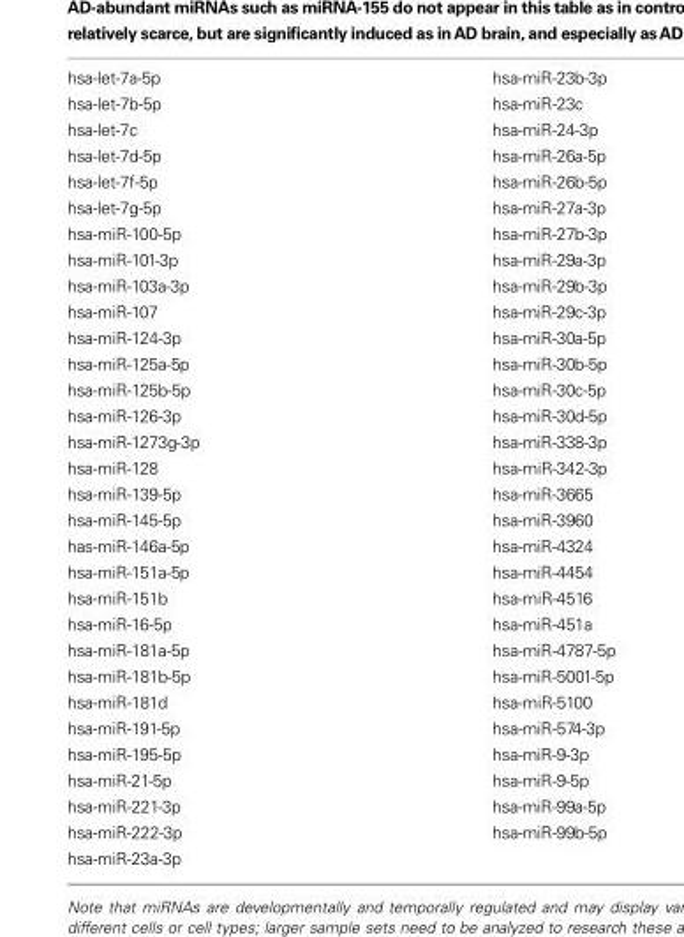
<table><tbody><tr><td>hsa-let-7a-5p</td><td>hsa-miR-23b-3p</td></tr><tr><td>hsa-let-7b-5p</td><td>hsa-miR-23c</td></tr><tr><td>hsa-let-7c</td><td>hsa-miR-24-3p</td></tr><tr><td>hsa-let-7d-5p</td><td>hsa-miR-26a-5p</td></tr><tr><td>hsa-let-7f-5p</td><td>hsa-miR-26b-5p</td></tr><tr><td>hsa-let-7g-5p</td><td>hsa-miR-27a-3p</td></tr><tr><td>hsa-miR-100-5p</td><td>hsa-miR-27b-3p</td></tr><tr><td>hsa-miR-101-3p</td><td>hsa-miR-29a-3p</td></tr><tr><td>hsa-miR-103a-3p</td><td>hsa-miR-29b-3p</td></tr><tr><td>hsa-miR-107</td><td>hsa-miR-29c-3p</td></tr><tr><td>hsa-miR-124-3p</td><td>hsa-miR-30a-5p</td></tr><tr><td>hsa-miR-125a-5p</td><td>hsa-miR-30b-5p</td></tr><tr><td>hsa-miR-125b-5p</td><td>hsa-miR-30c-5p</td></tr><tr><td>hsa-miR-126-3p</td><td>hsa-miR-30d-5p</td></tr><tr><td>hsa-miR-1273g-3p</td><td>hsa-miR-338-3p</td></tr><tr><td>hsa-miR-128</td><td>hsa-miR-342-3p</td></tr><tr><td>hsa-miR-139-5p</td><td>hsa-miR-3665</td></tr><tr><td>hsa-miR-145-5p</td><td>hsa-miR-3960</td></tr><tr><td>has-miR-146a-5p</td><td>hsa-miR-4324</td></tr><tr><td>hsa-miR-151a-5p</td><td>hsa-miR-4454</td></tr><tr><td>hsa-miR-151b</td><td>hsa-miR-4516</td></tr><tr><td>hsa-miR-16-5p</td><td>hsa-miR-451a</td></tr><tr><td>hsa-miR-181a-5p</td><td>hsa-miR-4787-5p</td></tr><tr><td>hsa-miR-181b-5p</td><td>hsa-miR-5001-5p</td></tr><tr><td>hsa-miR-181d</td><td>hsa-miR-5100</td></tr><tr><td>hsa-miR-191-5p</td><td>hsa-miR-574-3p</td></tr><tr><td>hsa-miR-195-5p</td><td>hsa-miR-9-3p</td></tr><tr><td>hsa-miR-21-5p</td><td>hsa-miR-9-5p</td></tr><tr><td>hsa-miR-221-3p</td><td>hsa-miR-99a-5p</td></tr><tr><td>hsa-miR-222-3p</td><td>hsa-miR-99b-5p</td></tr><tr><td>hsa-miR-23a-3p</td><td></td></tr></tbody></table>